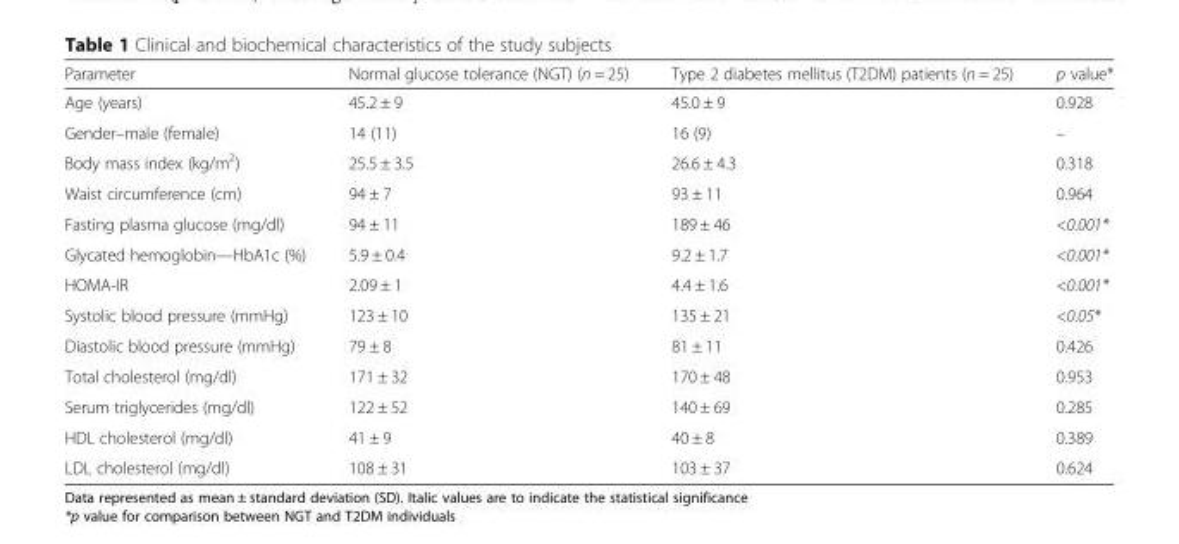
<table><thead><tr><td>Parameter</td><td>Normal glucose tolerance (NGT) (n = 25)</td><td>Type 2 diabetes mellitus (T2DM) patients (n = 25)</td><td>p value*</td></tr></thead><tbody><tr><td>Age (years)</td><td>45.2 ± 9</td><td>45.0 ± 9</td><td>0.928</td></tr><tr><td>Gender–male (female)</td><td>14 (11)</td><td>16 (9)</td><td>–</td></tr><tr><td>Body mass index (kg/m<sup>2</sup>)</td><td>25.5 ± 3.5</td><td>26.6 ± 4.3</td><td>0.318</td></tr><tr><td>Waist circumference (cm)</td><td>94 ± 7</td><td>93 ± 11</td><td>0.964</td></tr><tr><td>Fasting plasma glucose (mg/dl)</td><td>94 ± 11</td><td>189 ± 46</td><td>&lt;0.001*</td></tr><tr><td>Glycated hemoglobin—HbA1c (%)</td><td>5.9 ± 0.4</td><td>9.2 ± 1.7</td><td>&lt;0.001*</td></tr><tr><td>HOMA-IR</td><td>2.09 ± 1</td><td>4.4 ± 1.6</td><td>&lt;0.001*</td></tr><tr><td>Systolic blood pressure (mmHg)</td><td>123 ± 10</td><td>135 ± 21</td><td>&lt;0.05*</td></tr><tr><td>Diastolic blood pressure (mmHg)</td><td>79 ± 8</td><td>81 ± 11</td><td>0.426</td></tr><tr><td>Total cholesterol (mg/dl)</td><td>171 ± 32</td><td>170 ± 48</td><td>0.953</td></tr><tr><td>Serum triglycerides (mg/dl)</td><td>122 ± 52</td><td>140 ± 69</td><td>0.285</td></tr><tr><td>HDL cholesterol (mg/dl)</td><td>41 ± 9</td><td>40 ± 8</td><td>0.389</td></tr><tr><td>LDL cholesterol (mg/dl)</td><td>108 ± 31</td><td>103 ± 37</td><td>0.624</td></tr></tbody></table>